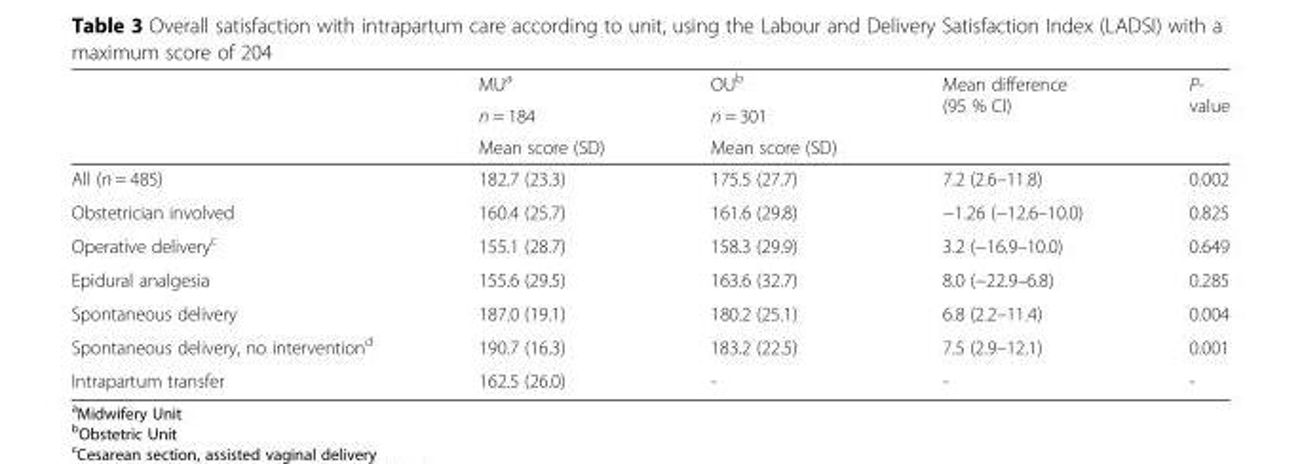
<table><thead><tr><td rowspan="3"></td><td rowspan="3">MU<sup>a</sup> n = 184 Mean score (SD)</td><td rowspan="3">OU<sup>b</sup> n = 301 Mean score (SD)</td><td rowspan="3">Mean difference (95 % CI)</td><td rowspan="3">P- value</td></tr><tr></tr><tr></tr></thead><tbody><tr><td>All (n = 485)</td><td>182.7 (23.3)</td><td>175.5 (27.7)</td><td>7.2 (2.6–11.8)</td><td>0.002</td></tr><tr><td>Obstetrician involved</td><td>160.4 (25.7)</td><td>161.6 (29.8)</td><td>−1.26 (−12.6–10.0)</td><td>0.825</td></tr><tr><td>Operative delivery<sup>c</sup></td><td>155.1 (28.7)</td><td>158.3 (29.9)</td><td>3.2 (−16.9–10.0)</td><td>0.649</td></tr><tr><td>Epidural analgesia</td><td>155.6 (29.5)</td><td>163.6 (32.7)</td><td>8.0 (−22.9–6.8)</td><td>0.285</td></tr><tr><td>Spontaneous delivery</td><td>187.0 (19.1)</td><td>180.2 (25.1)</td><td>6.8 (2.2–11.4)</td><td>0.004</td></tr><tr><td>Spontaneous delivery, no intervention<sup>d</sup></td><td>190.7 (16.3)</td><td>183.2 (22.5)</td><td>7.5 (2.9–12.1)</td><td>0.001</td></tr><tr><td>Intrapartum transfer</td><td>162.5 (26.0)</td><td>-</td><td>-</td><td>-</td></tr></tbody></table>